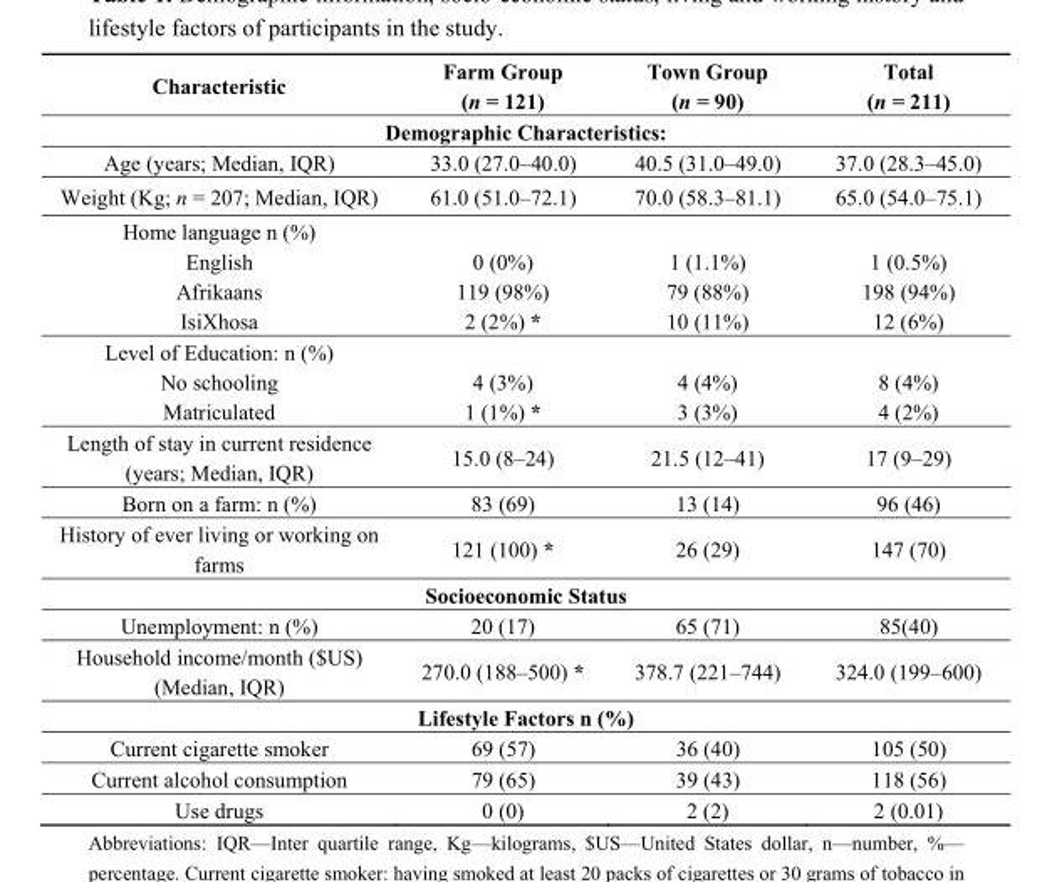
<table><thead><tr><td>Characteristic</td><td>Farm Group (n = 121)</td><td>Town Group (n = 90)</td><td>Total (n = 211)</td></tr></thead><tbody><tr><td colspan="4">Demographic Characteristics:</td></tr><tr><td>Age (years; Median, IQR)</td><td>33.0 (27.0–40.0)</td><td>40.5 (31.0–49.0)</td><td>37.0 (28.3–45.0)</td></tr><tr><td>Weight (Kg; n = 207; Median, IQR)</td><td>61.0 (51.0–72.1)</td><td>70.0 (58.3–81.1)</td><td>65.0 (54.0–75.1)</td></tr><tr><td>Home language n (%) English Afrikaans IsiXhosa</td><td>0 (0%) 119 (98%) 2 (2%) *</td><td>1 (1.1%) 79 (88%) 10 (11%)</td><td>1 (0.5%) 198 (94%) 12 (6%)</td></tr><tr><td>Level of Education: n (%) No schooling Matriculated</td><td>4 (3%) 1 (1%) *</td><td>4 (4%) 3 (3%)</td><td>8 (4%) 4 (2%)</td></tr><tr><td>Length of stay in current residence (years; Median, IQR)</td><td>15.0 (8–24)</td><td>21.5 (12–41)</td><td>17 (9–29)</td></tr><tr><td>Born on a farm: n (%)</td><td>83 (69)</td><td>13 (14)</td><td>96 (46)</td></tr><tr><td>History of ever living or working on farms</td><td>121 (100) *</td><td>26 (29)</td><td>147 (70)</td></tr><tr><td colspan="4">Socioeconomic Status</td></tr><tr><td>Unemployment: n (%)</td><td>20 (17)</td><td>65 (71)</td><td>85(40)</td></tr><tr><td>Household income/month ($US) (Median, IQR)</td><td>270.0 (188–500) *</td><td>378.7 (221–744)</td><td>324.0 (199–600)</td></tr><tr><td colspan="4">Lifestyle Factors n (%)</td></tr><tr><td>Current cigarette smoker</td><td>69 (57)</td><td>36 (40)</td><td>105 (50)</td></tr><tr><td>Current alcohol consumption</td><td>79 (65)</td><td>39 (43)</td><td>118 (56)</td></tr><tr><td>Use drugs</td><td>0 (0)</td><td>2 (2)</td><td>2 (0.01)</td></tr></tbody></table>